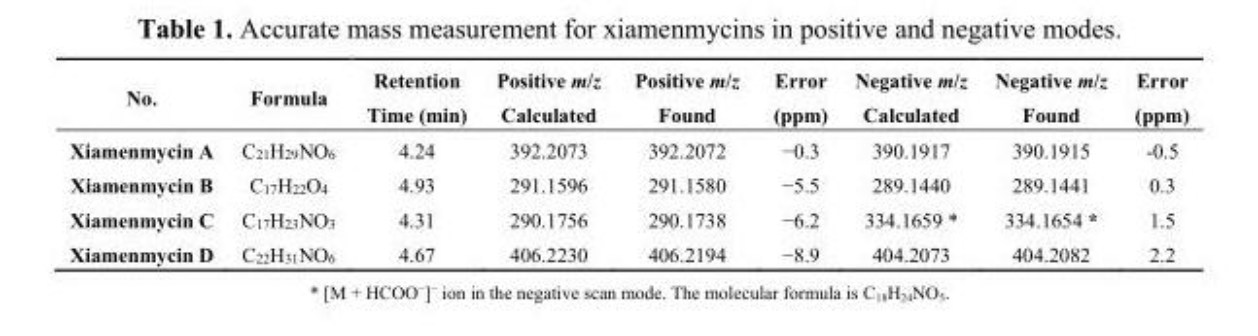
<table><thead><tr><td>No.</td><td>Formula</td><td>Retention Time (min)</td><td>Positive m/z Calculated</td><td>Positive m/z Found</td><td>Error (ppm)</td><td>Negative m/z Calculated</td><td>Negative m/z Found</td><td>Error (ppm)</td></tr></thead><tbody><tr><td>Xiamenmycin A</td><td>C<sub>21</sub>H<sub>29</sub>NO<sub>6</sub></td><td>4.24</td><td>392.2073</td><td>392.2072</td><td>−0.3</td><td>390.1917</td><td>390.1915</td><td>-0.5</td></tr><tr><td>Xiamenmycin B</td><td>C<sub>17</sub>H<sub>22</sub>O<sub>4</sub></td><td>4.93</td><td>291.1596</td><td>291.1580</td><td>−5.5</td><td>289.1440</td><td>289.1441</td><td>0.3</td></tr><tr><td>Xiamenmycin C</td><td>C<sub>17</sub>H<sub>23</sub>NO<sub>3</sub></td><td>4.31</td><td>290.1756</td><td>290.1738</td><td>−6.2</td><td>334.1659 *</td><td>334.1654 *</td><td>1.5</td></tr><tr><td>Xiamenmycin D</td><td>C<sub>22</sub>H<sub>31</sub>NO<sub>6</sub></td><td>4.67</td><td>406.2230</td><td>406.2194</td><td>−8.9</td><td>404.2073</td><td>404.2082</td><td>2.2</td></tr></tbody></table>